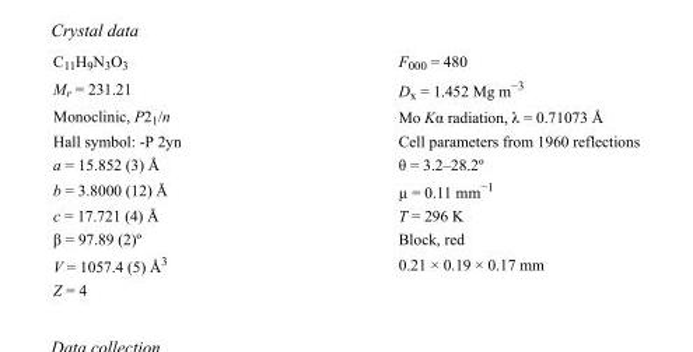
<table><tbody><tr><td>C<sub>11</sub>H<sub>9</sub>N<sub>3</sub>O<sub>3</sub></td><td>F000 = 480</td></tr><tr><td>M<sub>r</sub> = 231.21</td><td>D<sub>x</sub> = 1.452 Mg m<sup>−3</sup></td></tr><tr><td>Monoclinic, P2<sub>1</sub>/n</td><td>Mo Kα radiation, λ = 0.71073 Å</td></tr><tr><td>Hall symbol: -P 2yn</td><td>Cell parameters from 1960 reflections</td></tr><tr><td>a = 15.852 (3) Å</td><td>θ = 3.2–28.2º</td></tr><tr><td>b = 3.8000 (12) Å</td><td>µ = 0.11 mm<sup>−1</sup></td></tr><tr><td>c = 17.721 (4) Å</td><td>T = 296 K</td></tr><tr><td>β = 97.89 (2)º</td><td>Block, red</td></tr><tr><td>V = 1057.4 (5) Å<sup>3</sup></td><td>0.21 × 0.19 × 0.17 mm</td></tr><tr><td>Z = 4</td><td></td></tr></tbody></table>